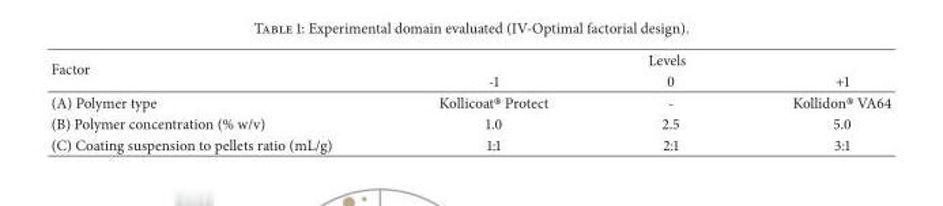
<table><thead><tr><td rowspan="2">Factor</td><td colspan="3">Levels</td></tr><tr><td>-1</td><td>0</td><td>+1</td></tr></thead><tbody><tr><td>(A) Polymer type</td><td>Kollicoat® Protect</td><td>-</td><td>Kollidon® VA64</td></tr><tr><td>(B) Polymer concentration (% w/v)</td><td>1.0</td><td>2.5</td><td>5.0</td></tr><tr><td>(C) Coating suspension to pellets ratio (mL/g)</td><td>1:1</td><td>2:1</td><td>3:1</td></tr></tbody></table>